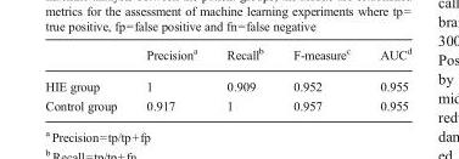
<table><thead><tr><td></td><td>Precision<sup>a</sup></td><td>Recall<sup>b</sup></td><td>F-measure<sup>c</sup></td><td>AUC<sup>d</sup></td></tr></thead><tbody><tr><td>HIE group</td><td>1</td><td>0.909</td><td>0.952</td><td>0.955</td></tr><tr><td>Control group</td><td>0.917</td><td>1</td><td>0.957</td><td>0.955</td></tr></tbody></table>